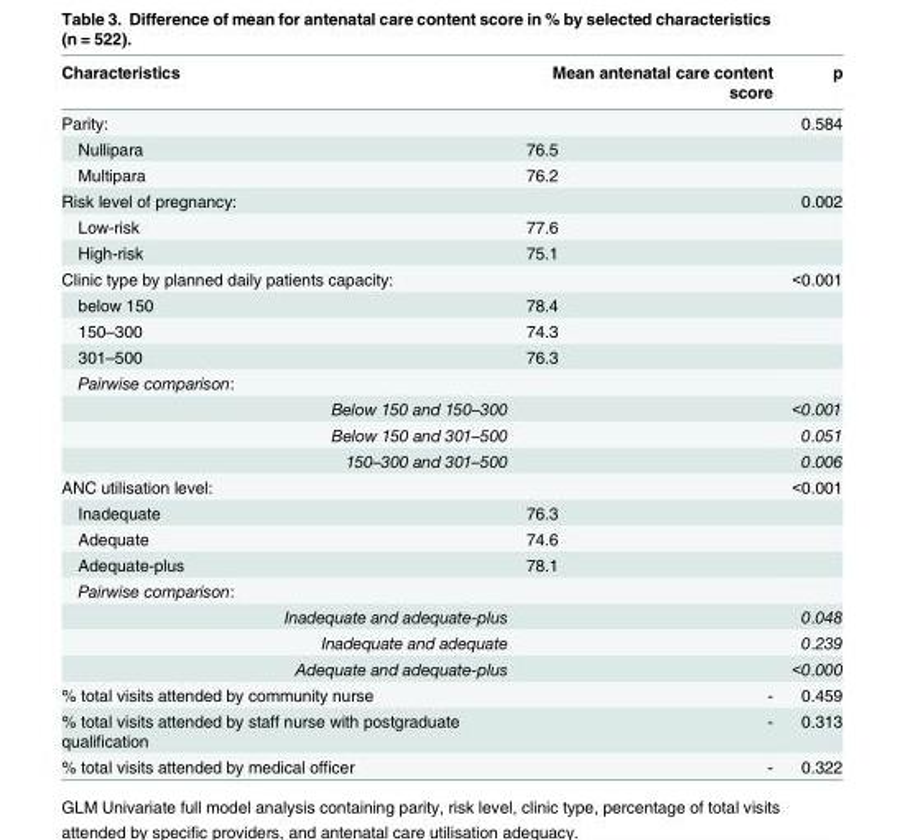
<table><thead><tr><td>Characteristics</td><td>Mean antenatal care content score</td><td>p</td></tr></thead><tbody><tr><td>Parity:</td><td></td><td>0.584</td></tr><tr><td>Nullipara</td><td>76.5</td><td></td></tr><tr><td>Multipara</td><td>76.2</td><td></td></tr><tr><td>Risk level of pregnancy:</td><td></td><td>0.002</td></tr><tr><td>Low-risk</td><td>77.6</td><td></td></tr><tr><td>High-risk</td><td>75.1</td><td></td></tr><tr><td>Clinic type by planned daily patients capacity:</td><td></td><td>&lt;0.001</td></tr><tr><td>below 150</td><td>78.4</td><td></td></tr><tr><td>150–300</td><td>74.3</td><td></td></tr><tr><td>301–500</td><td>76.3</td><td></td></tr><tr><td colspan="3">Pairwise comparison:</td></tr><tr><td>Below 150 and 150–300</td><td></td><td>&lt;0.001</td></tr><tr><td>Below 150 and 301–500</td><td></td><td>0.051</td></tr><tr><td>150–300 and 301–500</td><td></td><td>0.006</td></tr><tr><td>ANC utilisation level:</td><td></td><td>&lt;0.001</td></tr><tr><td>Inadequate</td><td>76.3</td><td></td></tr><tr><td>Adequate</td><td>74.6</td><td></td></tr><tr><td>Adequate-plus</td><td>78.1</td><td></td></tr><tr><td colspan="3">Pairwise comparison:</td></tr><tr><td>Inadequate and adequate-plus</td><td></td><td>0.048</td></tr><tr><td>Inadequate and adequate</td><td></td><td>0.239</td></tr><tr><td>Adequate and adequate-plus</td><td></td><td>&lt;0.000</td></tr><tr><td>% total visits attended by community nurse</td><td>-</td><td>0.459</td></tr><tr><td>% total visits attended by staff nurse with postgraduate qualification</td><td>-</td><td>0.313</td></tr><tr><td>% total visits attended by medical officer</td><td>-</td><td>0.322</td></tr></tbody></table>